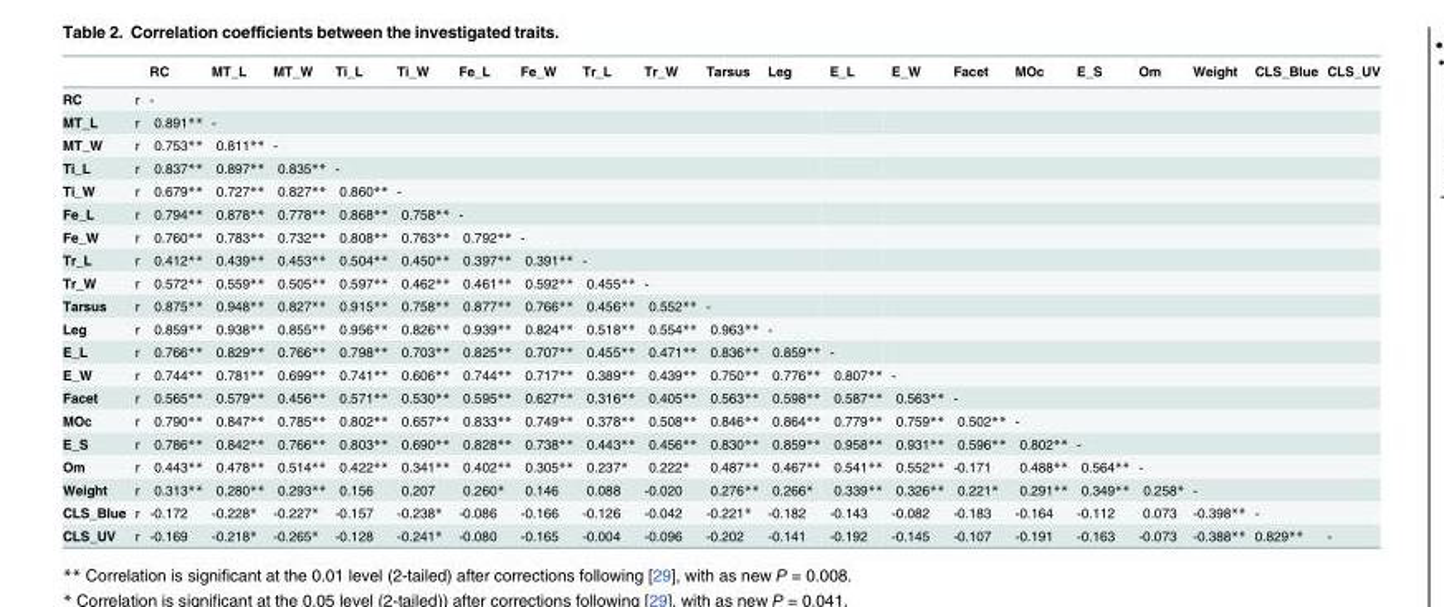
<table><thead><tr><td></td><td></td><td>RC</td><td>MT_L</td><td>MT_W</td><td>Ti_L</td><td>Ti_W</td><td>Fe_L</td><td>Fe_W</td><td>Tr_L</td><td>Tr_W</td><td>Tarsus</td><td>Leg</td><td>E_L</td><td>E_W</td><td>Facet</td><td>MOc</td><td>E_S</td><td>Om</td><td>Weight</td><td>CLS_Blue</td><td>CLS_UV</td></tr></thead><tbody><tr><td>RC</td><td>r</td><td>-</td><td></td><td></td><td></td><td></td><td></td><td></td><td></td><td></td><td></td><td></td><td></td><td></td><td></td><td></td><td></td><td></td><td></td><td></td><td></td></tr><tr><td>MT_L</td><td>r</td><td>0.891**</td><td>-</td><td></td><td></td><td></td><td></td><td></td><td></td><td></td><td></td><td></td><td></td><td></td><td></td><td></td><td></td><td></td><td></td><td></td><td></td></tr><tr><td>MT_W</td><td>r</td><td>0.753**</td><td>0.811**</td><td>-</td><td></td><td></td><td></td><td></td><td></td><td></td><td></td><td></td><td></td><td></td><td></td><td></td><td></td><td></td><td></td><td></td><td></td></tr><tr><td>Ti_L</td><td>r</td><td>0.837**</td><td>0.897**</td><td>0.835**</td><td>-</td><td></td><td></td><td></td><td></td><td></td><td></td><td></td><td></td><td></td><td></td><td></td><td></td><td></td><td></td><td></td><td></td></tr><tr><td>Ti_W</td><td>r</td><td>0.679**</td><td>0.727**</td><td>0.827**</td><td>0.860**</td><td>-</td><td></td><td></td><td></td><td></td><td></td><td></td><td></td><td></td><td></td><td></td><td></td><td></td><td></td><td></td><td></td></tr><tr><td>Fe_L</td><td>r</td><td>0.794**</td><td>0.878**</td><td>0.778**</td><td>0.868**</td><td>0.758**</td><td>-</td><td></td><td></td><td></td><td></td><td></td><td></td><td></td><td></td><td></td><td></td><td></td><td></td><td></td><td></td></tr><tr><td>Fe_W</td><td>r</td><td>0.760**</td><td>0.783**</td><td>0.732**</td><td>0.808**</td><td>0.763**</td><td>0.792**</td><td>-</td><td></td><td></td><td></td><td></td><td></td><td></td><td></td><td></td><td></td><td></td><td></td><td></td><td></td></tr><tr><td>Tr_L</td><td>r</td><td>0.412**</td><td>0.439**</td><td>0.453**</td><td>0.504**</td><td>0.450**</td><td>0.397**</td><td>0.391**</td><td>-</td><td></td><td></td><td></td><td></td><td></td><td></td><td></td><td></td><td></td><td></td><td></td><td></td></tr><tr><td>Tr_W</td><td>r</td><td>0.572**</td><td>0.559**</td><td>0.505**</td><td>0.597**</td><td>0.462**</td><td>0.461**</td><td>0.592**</td><td>0.455**</td><td>-</td><td></td><td></td><td></td><td></td><td></td><td></td><td></td><td></td><td></td><td></td><td></td></tr><tr><td>Tarsus</td><td>r</td><td>0.875**</td><td>0.948**</td><td>0.827**</td><td>0.915**</td><td>0.758**</td><td>0.877**</td><td>0.766**</td><td>0.456**</td><td>0.552**</td><td>-</td><td></td><td></td><td></td><td></td><td></td><td></td><td></td><td></td><td></td><td></td></tr><tr><td>Leg</td><td>r</td><td>0.859**</td><td>0.938**</td><td>0.855**</td><td>0.956**</td><td>0.826**</td><td>0.939**</td><td>0.824**</td><td>0.518**</td><td>0.554**</td><td>0.963**</td><td>-</td><td></td><td></td><td></td><td></td><td></td><td></td><td></td><td></td><td></td></tr><tr><td>E_L</td><td>r</td><td>0.766**</td><td>0.829**</td><td>0.766**</td><td>0.798**</td><td>0.703**</td><td>0.825**</td><td>0.707**</td><td>0.455**</td><td>0.471**</td><td>0.836**</td><td>0.859**</td><td>-</td><td></td><td></td><td></td><td></td><td></td><td></td><td></td><td></td></tr><tr><td>E_W</td><td>r</td><td>0.744**</td><td>0.781**</td><td>0.699**</td><td>0.741**</td><td>0.606**</td><td>0.744**</td><td>0.717**</td><td>0.389**</td><td>0.439**</td><td>0.750**</td><td>0.776**</td><td>0.807**</td><td>-</td><td></td><td></td><td></td><td></td><td></td><td></td><td></td></tr><tr><td>Facet</td><td>r</td><td>0.565**</td><td>0.579**</td><td>0.456**</td><td>0.571**</td><td>0.530**</td><td>0.595**</td><td>0.627**</td><td>0.316**</td><td>0.405**</td><td>0.563**</td><td>0.598**</td><td>0.587**</td><td>0.563**</td><td>-</td><td></td><td></td><td></td><td></td><td></td><td></td></tr><tr><td>MOc</td><td>r</td><td>0.790**</td><td>0.847**</td><td>0.785**</td><td>0.802**</td><td>0.657**</td><td>0.833**</td><td>0.749**</td><td>0.378**</td><td>0.508**</td><td>0.846**</td><td>0.864**</td><td>0.779**</td><td>0.759**</td><td>0.502**</td><td>-</td><td></td><td></td><td></td><td></td><td></td></tr><tr><td>E_S</td><td>r</td><td>0.786**</td><td>0.842**</td><td>0.766**</td><td>0.803**</td><td>0.690**</td><td>0.828**</td><td>0.738**</td><td>0.443**</td><td>0.456**</td><td>0.830**</td><td>0.859**</td><td>0.958**</td><td>0.931**</td><td>0.596**</td><td>0.802**</td><td>-</td><td></td><td></td><td></td><td></td></tr><tr><td>Om</td><td>r</td><td>0.443**</td><td>0.478**</td><td>0.514**</td><td>0.422**</td><td>0.341**</td><td>0.402**</td><td>0.305**</td><td>0.237*</td><td>0.222*</td><td>0.487**</td><td>0.467**</td><td>0.541**</td><td>0.552**</td><td>-0.171</td><td>0.488**</td><td>0.564**</td><td>-</td><td></td><td></td><td></td></tr><tr><td>Weight</td><td>r</td><td>0.313**</td><td>0.280**</td><td>0.293**</td><td>0.156</td><td>0.207</td><td>0.260*</td><td>0.146</td><td>0.088</td><td>-0.020</td><td>0.276**</td><td>0.266*</td><td>0.339**</td><td>0.326**</td><td>0.221*</td><td>0.291**</td><td>0.349**</td><td>0.258*</td><td>-</td><td></td><td></td></tr><tr><td>CLS_Blue</td><td>r</td><td>-0.172</td><td>-0.228*</td><td>-0.227*</td><td>-0.157</td><td>-0.238*</td><td>-0.086</td><td>-0.166</td><td>-0.126</td><td>-0.042</td><td>-0.221*</td><td>-0.182</td><td>-0.143</td><td>-0.082</td><td>-0.183</td><td>-0.164</td><td>-0.112</td><td>0.073</td><td>-0.398**</td><td>-</td><td></td></tr><tr><td>CLS_UV</td><td>r</td><td>-0.169</td><td>-0.218*</td><td>-0.265*</td><td>-0.128</td><td>-0.241*</td><td>-0.080</td><td>-0.165</td><td>-0.004</td><td>-0.096</td><td>-0.202</td><td>-0.141</td><td>-0.192</td><td>-0.145</td><td>-0.107</td><td>-0.191</td><td>-0.163</td><td>-0.073</td><td>-0.388**</td><td>0.829**</td><td>-</td></tr></tbody></table>